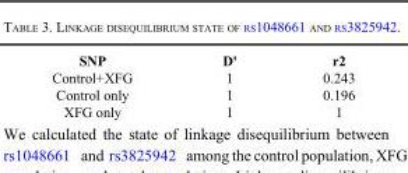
<table><tbody><tr><td>SNP</td><td>D&#x27;</td><td>r2</td></tr><tr><td>Control+XFG</td><td>1</td><td>0.243</td></tr><tr><td>Control only</td><td>1</td><td>0.196</td></tr><tr><td>XFG only</td><td>1</td><td>1</td></tr></tbody></table>